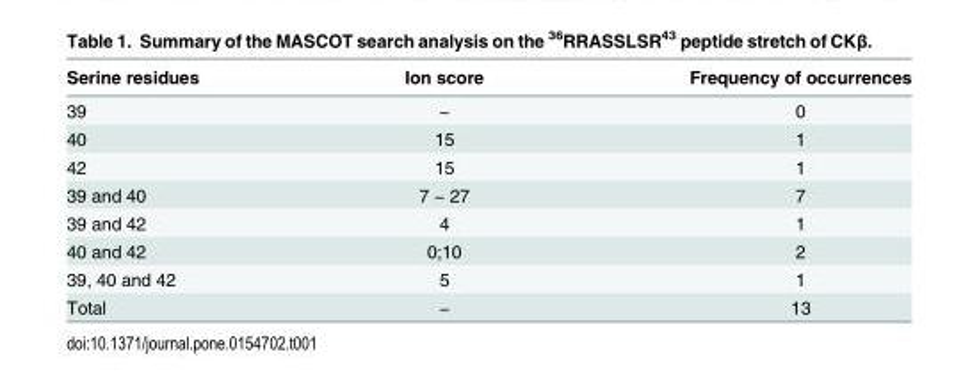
<table><thead><tr><td>Serine residues</td><td>Ion score</td><td>Frequency of occurrences</td></tr></thead><tbody><tr><td>39</td><td>−</td><td>0</td></tr><tr><td>40</td><td>15</td><td>1</td></tr><tr><td>42</td><td>15</td><td>1</td></tr><tr><td>39 and 40</td><td>7 − 27</td><td>7</td></tr><tr><td>39 and 42</td><td>4</td><td>1</td></tr><tr><td>40 and 42</td><td>0;10</td><td>2</td></tr><tr><td>39, 40 and 42</td><td>5</td><td>1</td></tr><tr><td>Total</td><td>−</td><td>13</td></tr></tbody></table>